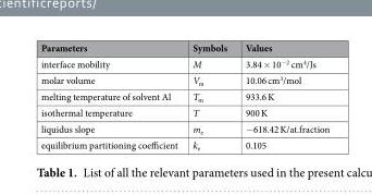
<table><thead><tr><td>Parameters</td><td>Symbols</td><td>Values</td></tr></thead><tbody><tr><td>interface mobility</td><td>M</td><td>3.84 × 10<sup>−2</sup> cm<sup>4</sup>/Js</td></tr><tr><td>molar volume</td><td>V<sub>m</sub></td><td>10.06 cm<sup>3</sup>/mol</td></tr><tr><td>melting temperature of solvent Al</td><td>T<sub>m</sub></td><td>933.6 K</td></tr><tr><td>isothermal temperature</td><td>T</td><td>900 K</td></tr><tr><td>liquidus slope</td><td>m<sub>e</sub></td><td>−618.42 K/at.fraction</td></tr><tr><td>equilibrium partitioning coefficient</td><td>k<sub>e</sub></td><td>0.105</td></tr></tbody></table>